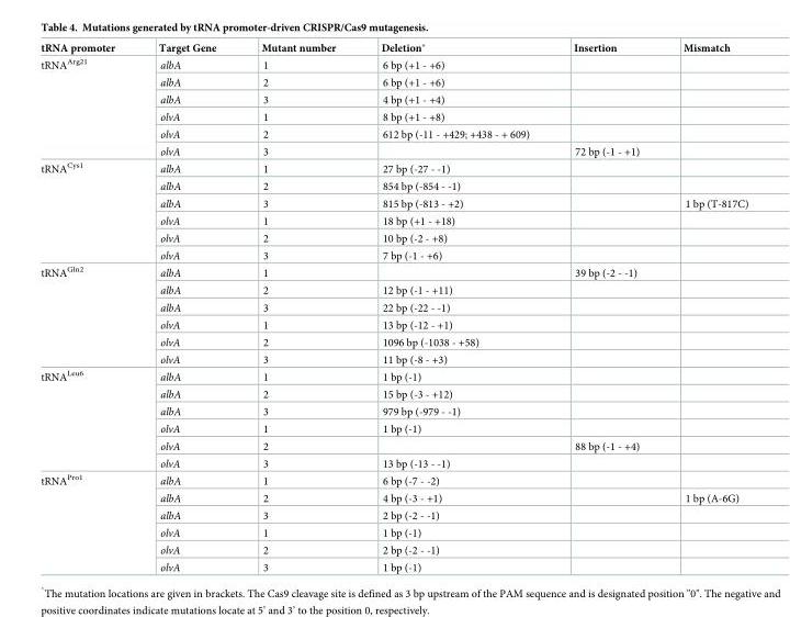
<table><thead><tr><td>tRNA promoter</td><td>Target Gene</td><td>Mutant number</td><td>Deletion*</td><td>Insertion</td><td>Mismatch</td></tr></thead><tbody><tr><td rowspan="6">tRNA<sup>Arg21</sup></td><td>albA</td><td>1</td><td>6 bp (+1 - +6)</td><td></td><td></td></tr><tr><td>albA</td><td>2</td><td>6 bp (+1 - +6)</td><td></td><td></td></tr><tr><td>albA</td><td>3</td><td>4 bp (+1 - +4)</td><td></td><td></td></tr><tr><td>olvA</td><td>1</td><td>8 bp (+1 - +8)</td><td></td><td></td></tr><tr><td>olvA</td><td>2</td><td>612 bp (-11 - +429; +438 - + 609)</td><td></td><td></td></tr><tr><td>olvA</td><td>3</td><td></td><td>72 bp (-1 - +1)</td><td></td></tr><tr><td rowspan="6">tRNA<sup>Cys1</sup></td><td>albA</td><td>1</td><td>27 bp (-27 - -1)</td><td></td><td></td></tr><tr><td>albA</td><td>2</td><td>854 bp (-854 - -1)</td><td></td><td></td></tr><tr><td>albA</td><td>3</td><td>815 bp (-813 - +2)</td><td></td><td>1 bp (T-817C)</td></tr><tr><td>olvA</td><td>1</td><td>18 bp (+1 - +18)</td><td></td><td></td></tr><tr><td>olvA</td><td>2</td><td>10 bp (-2 - +8)</td><td></td><td></td></tr><tr><td>olvA</td><td>3</td><td>7 bp (-1 - +6)</td><td></td><td></td></tr><tr><td rowspan="6">tRNA<sup>Gln2</sup></td><td>albA</td><td>1</td><td></td><td>39 bp (-2 - -1)</td><td></td></tr><tr><td>albA</td><td>2</td><td>12 bp (-1 - +11)</td><td></td><td></td></tr><tr><td>albA</td><td>3</td><td>22 bp (-22 - -1)</td><td></td><td></td></tr><tr><td>olvA</td><td>1</td><td>13 bp (-12 - +1)</td><td></td><td></td></tr><tr><td>olvA</td><td>2</td><td>1096 bp (-1038 - +58)</td><td></td><td></td></tr><tr><td>olvA</td><td>3</td><td>11 bp (-8 - +3)</td><td></td><td></td></tr><tr><td rowspan="6">tRNA<sup>Leu6</sup></td><td>albA</td><td>1</td><td>1 bp (-1)</td><td></td><td></td></tr><tr><td>albA</td><td>2</td><td>15 bp (-3 - +12)</td><td></td><td></td></tr><tr><td>albA</td><td>3</td><td>979 bp (-979 - -1)</td><td></td><td></td></tr><tr><td>olvA</td><td>1</td><td>1 bp (-1)</td><td></td><td></td></tr><tr><td>olvA</td><td>2</td><td></td><td>88 bp (-1 - +4)</td><td></td></tr><tr><td>olvA</td><td>3</td><td>13 bp (-13 - -1)</td><td></td><td></td></tr><tr><td rowspan="6">tRNA<sup>Pro1</sup></td><td>albA</td><td>1</td><td>6 bp (-7 - -2)</td><td></td><td></td></tr><tr><td>albA</td><td>2</td><td>4 bp (-3 - +1)</td><td></td><td>1 bp (A-6G)</td></tr><tr><td>albA</td><td>3</td><td>2 bp (-2 - -1)</td><td></td><td></td></tr><tr><td>olvA</td><td>1</td><td>1 bp (-1)</td><td></td><td></td></tr><tr><td>olvA</td><td>2</td><td>2 bp (-2 - -1)</td><td></td><td></td></tr><tr><td>olvA</td><td>3</td><td>1 bp (-1)</td><td></td><td></td></tr></tbody></table>